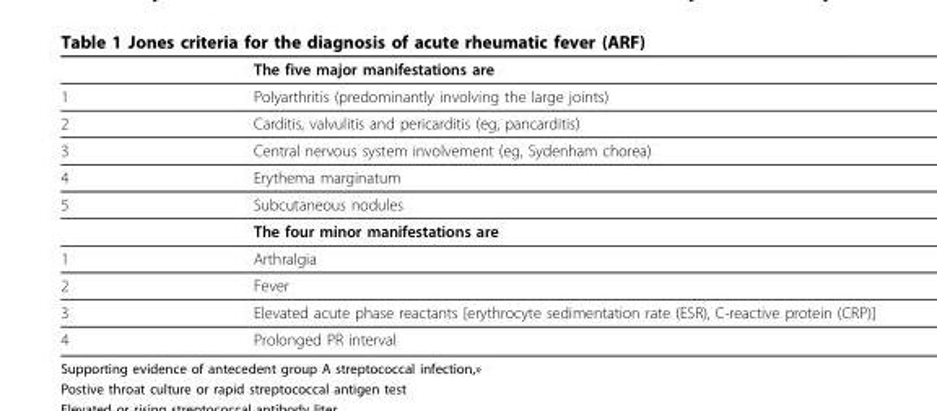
<table><thead><tr><td></td><td>The five major manifestations are</td></tr></thead><tbody><tr><td>1</td><td>Polyarthritis (predominantly involving the large joints)</td></tr><tr><td>2</td><td>Carditis, valvulitis and pericarditis (eg, pancarditis)</td></tr><tr><td>3</td><td>Central nervous system involvement (eg, Sydenham chorea)</td></tr><tr><td>4</td><td>Erythema marginatum</td></tr><tr><td rowspan="2">5</td><td>Subcutaneous nodules</td></tr><tr><td>The four minor manifestations are</td></tr><tr><td>1</td><td>Arthralgia</td></tr><tr><td>2</td><td>Fever</td></tr><tr><td>3</td><td>Elevated acute phase reactants [erythrocyte sedimentation rate (ESR), C-reactive protein (CRP)]</td></tr><tr><td>4</td><td>Prolonged PR interval</td></tr></tbody></table>